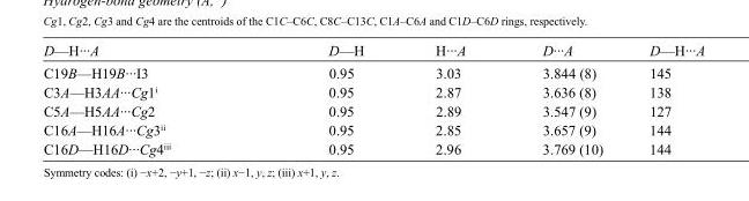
<table><tbody><tr><td>D—H···A</td><td>D—H</td><td>H···A</td><td>D···A</td><td>D—H···A</td></tr><tr><td>C19B—H19B···I3</td><td>0.95</td><td>3.03</td><td>3.844 (8)</td><td>145</td></tr><tr><td>C3A—H3AA···Cg1<sup>i</sup></td><td>0.95</td><td>2.87</td><td>3.636 (8)</td><td>138</td></tr><tr><td>C5A—H5AA···Cg2</td><td>0.95</td><td>2.89</td><td>3.547 (9)</td><td>127</td></tr><tr><td>C16A—H16A···Cg3<sup>ii</sup></td><td>0.95</td><td>2.85</td><td>3.657 (9)</td><td>144</td></tr><tr><td>C16D—H16D···Cg4<sup>iii</sup></td><td>0.95</td><td>2.96</td><td>3.769 (10)</td><td>144</td></tr></tbody></table>